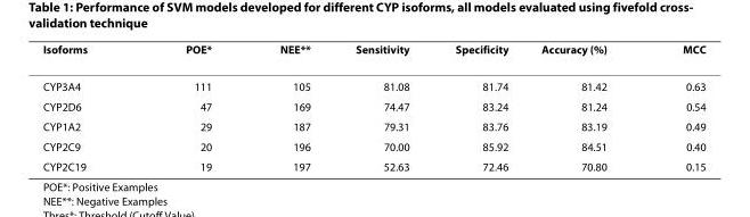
<table><thead><tr><td>Isoforms</td><td>POE*</td><td>NEE**</td><td>Sensitivity</td><td>Specificity</td><td>Accuracy (%)</td><td>MCC</td></tr></thead><tbody><tr><td>CYP3A4</td><td>111</td><td>105</td><td>81.08</td><td>81.74</td><td>81.42</td><td>0.63</td></tr><tr><td>CYP2D6</td><td>47</td><td>169</td><td>74.47</td><td>83.24</td><td>81.24</td><td>0.54</td></tr><tr><td>CYP1A2</td><td>29</td><td>187</td><td>79.31</td><td>83.76</td><td>83.19</td><td>0.49</td></tr><tr><td>CYP2C9</td><td>20</td><td>196</td><td>70.00</td><td>85.92</td><td>84.51</td><td>0.40</td></tr><tr><td>CYP2C19</td><td>19</td><td>197</td><td>52.63</td><td>72.46</td><td>70.80</td><td>0.15</td></tr></tbody></table>